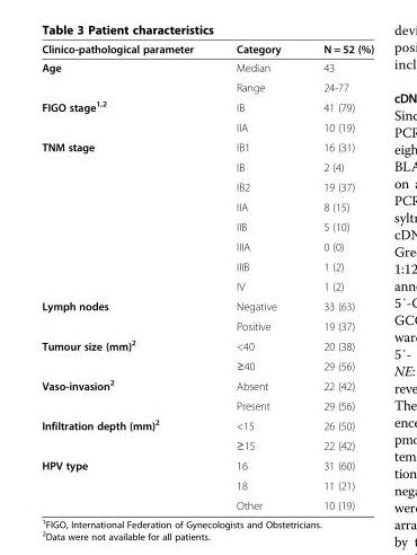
<table><thead><tr><td>Clinico-pathological parameter</td><td>Category</td><td>N = 52 (%)</td></tr></thead><tbody><tr><td rowspan="2">Age</td><td>Median</td><td>43</td></tr><tr><td>Range</td><td>24-77</td></tr><tr><td rowspan="2">FIGO stage<sup>1,2</sup></td><td>IB</td><td>41 (79)</td></tr><tr><td>IIA</td><td>10 (19)</td></tr><tr><td rowspan="8">TNM stage</td><td>IB1</td><td>16 (31)</td></tr><tr><td>IB</td><td>2 (4)</td></tr><tr><td>IB2</td><td>19 (37)</td></tr><tr><td>IIA</td><td>8 (15)</td></tr><tr><td>IIB</td><td>5 (10)</td></tr><tr><td>IIIA</td><td>0 (0)</td></tr><tr><td>IIIB</td><td>1 (2)</td></tr><tr><td>IV</td><td>1 (2)</td></tr><tr><td rowspan="2">Lymph nodes</td><td>Negative</td><td>33 (63)</td></tr><tr><td>Positive</td><td>19 (37)</td></tr><tr><td rowspan="2">Tumour size (mm)<sup>2</sup></td><td>&lt;40</td><td>20 (38)</td></tr><tr><td>≥40</td><td>29 (56)</td></tr><tr><td rowspan="2">Vaso-invasion<sup>2</sup></td><td>Absent</td><td>22 (42)</td></tr><tr><td>Present</td><td>29 (56)</td></tr><tr><td rowspan="2">Infiltration depth (mm)<sup>2</sup></td><td>&lt;15</td><td>26 (50)</td></tr><tr><td>≥15</td><td>22 (42)</td></tr><tr><td rowspan="3">HPV type</td><td>16</td><td>31 (60)</td></tr><tr><td>18</td><td>11 (21)</td></tr><tr><td>Other</td><td>10 (19)</td></tr></tbody></table>